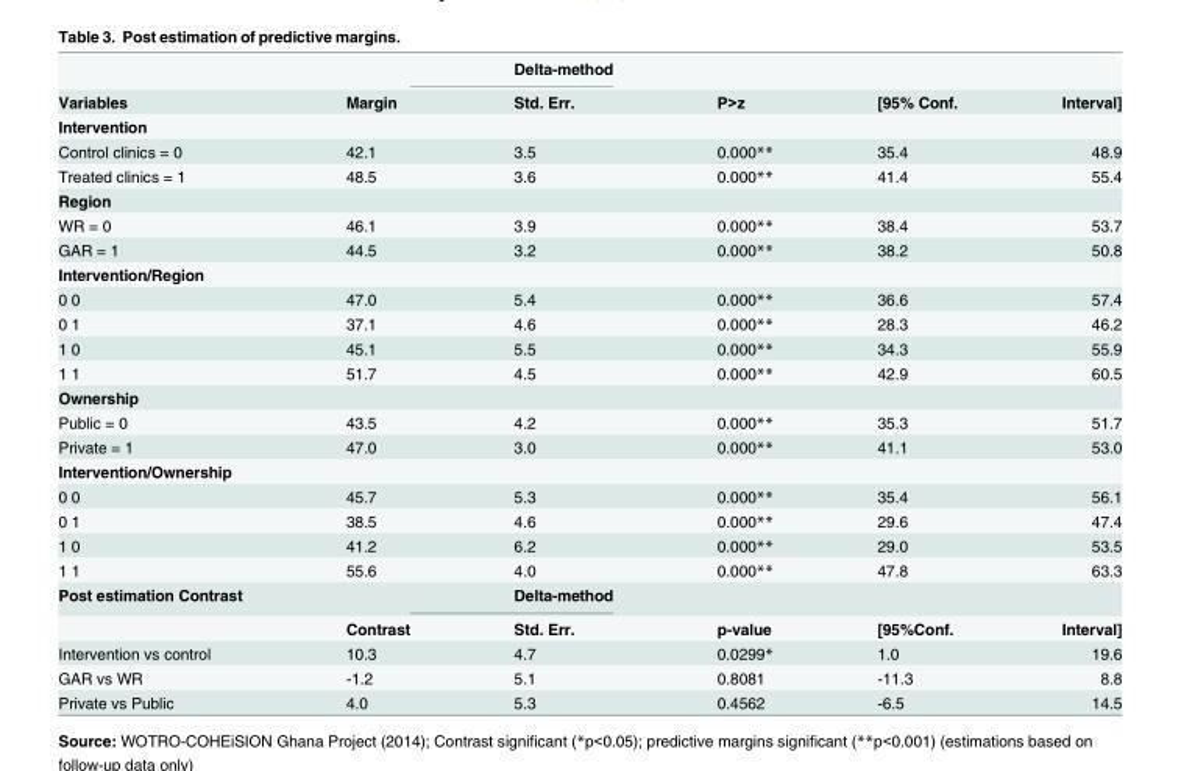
<table><thead><tr><td rowspan="2">Variables</td><td rowspan="2">Margin</td><td rowspan="2">Delta-method Std. Err.</td><td rowspan="2">P&gt;z</td><td rowspan="2">[95% Conf.</td><td rowspan="2">Interval]</td></tr><tr></tr></thead><tbody><tr><td colspan="6">Intervention</td></tr><tr><td>Control clinics = 0</td><td>42.1</td><td>3.5</td><td>0.000**</td><td>35.4</td><td>48.9</td></tr><tr><td>Treated clinics = 1</td><td>48.5</td><td>3.6</td><td>0.000**</td><td>41.4</td><td>55.4</td></tr><tr><td colspan="6">Region</td></tr><tr><td>WR = 0</td><td>46.1</td><td>3.9</td><td>0.000**</td><td>38.4</td><td>53.7</td></tr><tr><td>GAR = 1</td><td>44.5</td><td>3.2</td><td>0.000**</td><td>38.2</td><td>50.8</td></tr><tr><td colspan="6">Intervention/Region</td></tr><tr><td>0 0</td><td>47.0</td><td>5.4</td><td>0.000**</td><td>36.6</td><td>57.4</td></tr><tr><td>0 1</td><td>37.1</td><td>4.6</td><td>0.000**</td><td>28.3</td><td>46.2</td></tr><tr><td>1 0</td><td>45.1</td><td>5.5</td><td>0.000**</td><td>34.3</td><td>55.9</td></tr><tr><td>1 1</td><td>51.7</td><td>4.5</td><td>0.000**</td><td>42.9</td><td>60.5</td></tr><tr><td colspan="6">Ownership</td></tr><tr><td>Public = 0</td><td>43.5</td><td>4.2</td><td>0.000**</td><td>35.3</td><td>51.7</td></tr><tr><td>Private = 1</td><td>47.0</td><td>3.0</td><td>0.000**</td><td>41.1</td><td>53.0</td></tr><tr><td colspan="6">Intervention/Ownership</td></tr><tr><td>0 0</td><td>45.7</td><td>5.3</td><td>0.000**</td><td>35.4</td><td>56.1</td></tr><tr><td>0 1</td><td>38.5</td><td>4.6</td><td>0.000**</td><td>29.6</td><td>47.4</td></tr><tr><td>1 0</td><td>41.2</td><td>6.2</td><td>0.000**</td><td>29.0</td><td>53.5</td></tr><tr><td>1 1</td><td>55.6</td><td>4.0</td><td>0.000**</td><td>47.8</td><td>63.3</td></tr><tr><td rowspan="2">Post estimation Contrast</td><td></td><td>Delta-method</td><td></td><td></td><td></td></tr><tr><td>Contrast</td><td>Std. Err.</td><td>p-value</td><td>[95%Conf.</td><td>Interval]</td></tr><tr><td>Intervention vs control</td><td>10.3</td><td>4.7</td><td>0.0299*</td><td>1.0</td><td>19.6</td></tr><tr><td>GAR vs WR</td><td>-1.2</td><td>5.1</td><td>0.8081</td><td>-11.3</td><td>8.8</td></tr><tr><td>Private vs Public</td><td>4.0</td><td>5.3</td><td>0.4562</td><td>-6.5</td><td>14.5</td></tr></tbody></table>